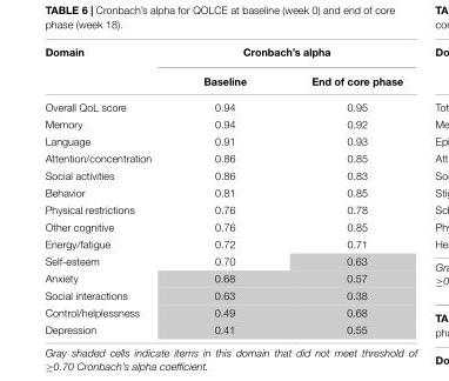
<table><thead><tr><td rowspan="2">Domain</td><td colspan="2">Cronbach’s alpha</td></tr><tr><td>Baseline</td><td>End of core phase</td></tr></thead><tbody><tr><td>Overall QoL score</td><td>0.94</td><td>0.95</td></tr><tr><td>Memory</td><td>0.94</td><td>0.92</td></tr><tr><td>Language</td><td>0.91</td><td>0.93</td></tr><tr><td>Attention/concentration</td><td>0.86</td><td>0.85</td></tr><tr><td>Social activities</td><td>0.86</td><td>0.83</td></tr><tr><td>Behavior</td><td>0.81</td><td>0.85</td></tr><tr><td>Physical restrictions</td><td>0.76</td><td>0.78</td></tr><tr><td>Other cognitive</td><td>0.76</td><td>0.85</td></tr><tr><td>Energy/fatigue</td><td>0.72</td><td>0.71</td></tr><tr><td>Self-esteem</td><td>0.70</td><td>0.63</td></tr><tr><td>Anxiety</td><td>0.68</td><td>0.57</td></tr><tr><td>Social interactions</td><td>0.63</td><td>0.38</td></tr><tr><td>Control/helplessness</td><td>0.49</td><td>0.68</td></tr><tr><td>Depression</td><td>0.41</td><td>0.55</td></tr></tbody></table>